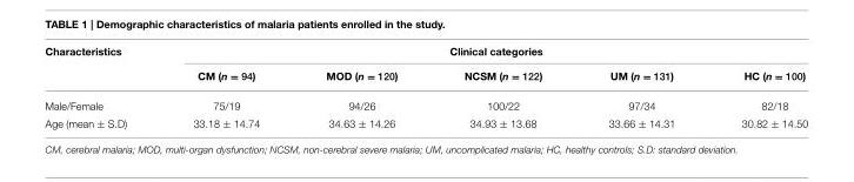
<table><thead><tr><td rowspan="2">Characteristics</td><td colspan="5">Clinical categories</td></tr><tr><td>CM (n = 94)</td><td>MOD (n = 120)</td><td>NCSM (n = 122)</td><td>UM (n = 131)</td><td>HC (n = 100)</td></tr></thead><tbody><tr><td>Male/Female</td><td>75/19</td><td>94/26</td><td>100/22</td><td>97/34</td><td>82/18</td></tr><tr><td>Age (mean ± S.D)</td><td>33.18 ± 14.74</td><td>34.63 ± 14.26</td><td>34.93 ± 13.68</td><td>33.66 ± 14.31</td><td>30.82 ± 14.50</td></tr></tbody></table>